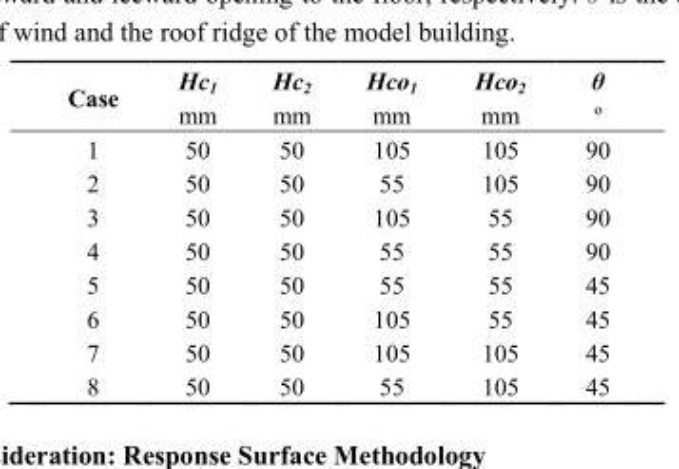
<table><thead><tr><td rowspan="2">Case</td><td rowspan="2">Hc<sub>1</sub> mm</td><td rowspan="2">Hc<sub>2</sub> mm</td><td rowspan="2">Hco<sub>1</sub> mm</td><td rowspan="2">Hco<sub>2</sub> mm</td><td rowspan="2">θ º</td></tr><tr></tr></thead><tbody><tr><td>1</td><td>50</td><td>50</td><td>105</td><td>105</td><td>90</td></tr><tr><td>2</td><td>50</td><td>50</td><td>55</td><td>105</td><td>90</td></tr><tr><td>3</td><td>50</td><td>50</td><td>105</td><td>55</td><td>90</td></tr><tr><td>4</td><td>50</td><td>50</td><td>55</td><td>55</td><td>90</td></tr><tr><td>5</td><td>50</td><td>50</td><td>55</td><td>55</td><td>45</td></tr><tr><td>6</td><td>50</td><td>50</td><td>105</td><td>55</td><td>45</td></tr><tr><td>7</td><td>50</td><td>50</td><td>105</td><td>105</td><td>45</td></tr><tr><td>8</td><td>50</td><td>50</td><td>55</td><td>105</td><td>45</td></tr></tbody></table>